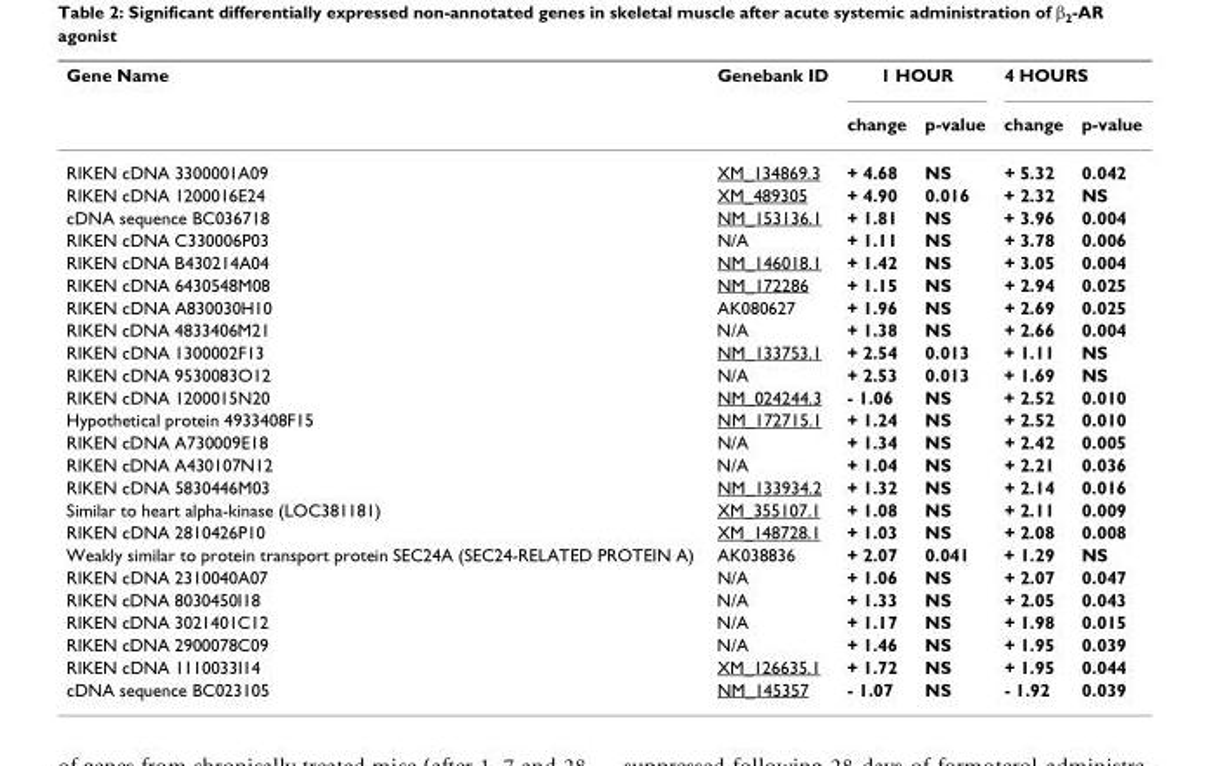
<table><thead><tr><td rowspan="2">Gene Name</td><td rowspan="2">Genebank ID</td><td colspan="2">1 HOUR</td><td colspan="2">4 HOURS</td></tr><tr><td>change</td><td>p-value</td><td>change</td><td>p-value</td></tr></thead><tbody><tr><td>RIKEN cDNA 3300001A09</td><td>XM_134869.3</td><td>+ 4.68</td><td>NS</td><td>+ 5.32</td><td>0.042</td></tr><tr><td>RIKEN cDNA 1200016E24</td><td>XM_489305</td><td>+ 4.90</td><td>0.016</td><td>+ 2.32</td><td>NS</td></tr><tr><td>cDNA sequence BC036718</td><td>NM_153136.1</td><td>+ 1.81</td><td>NS</td><td>+ 3.96</td><td>0.004</td></tr><tr><td>RIKEN cDNA C330006P03</td><td>N/A</td><td>+ 1.11</td><td>NS</td><td>+ 3.78</td><td>0.006</td></tr><tr><td>RIKEN cDNA B430214A04</td><td>NM_146018.1</td><td>+ 1.42</td><td>NS</td><td>+ 3.05</td><td>0.004</td></tr><tr><td>RIKEN cDNA 6430548M08</td><td>NM_172286</td><td>+ 1.15</td><td>NS</td><td>+ 2.94</td><td>0.025</td></tr><tr><td>RIKEN cDNA A830030H10</td><td>AK080627</td><td>+ 1.96</td><td>NS</td><td>+ 2.69</td><td>0.025</td></tr><tr><td>RIKEN cDNA 4833406M21</td><td>N/A</td><td>+ 1.38</td><td>NS</td><td>+ 2.66</td><td>0.004</td></tr><tr><td>RIKEN cDNA 1300002F13</td><td>NM_133753.1</td><td>+ 2.54</td><td>0.013</td><td>+ 1.11</td><td>NS</td></tr><tr><td>RIKEN cDNA 9530083O12</td><td>N/A</td><td>+ 2.53</td><td>0.013</td><td>+ 1.69</td><td>NS</td></tr><tr><td>RIKEN cDNA 1200015N20</td><td>NM_024244.3</td><td>- 1.06</td><td>NS</td><td>+ 2.52</td><td>0.010</td></tr><tr><td>Hypothetical protein 4933408F15</td><td>NM_172715.1</td><td>+ 1.24</td><td>NS</td><td>+ 2.52</td><td>0.010</td></tr><tr><td>RIKEN cDNA A730009E18</td><td>N/A</td><td>+ 1.34</td><td>NS</td><td>+ 2.42</td><td>0.005</td></tr><tr><td>RIKEN cDNA A430107N12</td><td>N/A</td><td>+ 1.04</td><td>NS</td><td>+ 2.21</td><td>0.036</td></tr><tr><td>RIKEN cDNA 5830446M03</td><td>NM_133934.2</td><td>+ 1.32</td><td>NS</td><td>+ 2.14</td><td>0.016</td></tr><tr><td>Similar to heart alpha-kinase (LOC381181)</td><td>XM_355107.1</td><td>+ 1.08</td><td>NS</td><td>+ 2.11</td><td>0.009</td></tr><tr><td>RIKEN cDNA 2810426P10</td><td>XM_148728.1</td><td>+ 1.03</td><td>NS</td><td>+ 2.08</td><td>0.008</td></tr><tr><td>Weakly similar to protein transport protein SEC24A (SEC24-RELATED PROTEIN A)</td><td>AK038836</td><td>+ 2.07</td><td>0.041</td><td>+ 1.29</td><td>NS</td></tr><tr><td>RIKEN cDNA 2310040A07</td><td>N/A</td><td>+ 1.06</td><td>NS</td><td>+ 2.07</td><td>0.047</td></tr><tr><td>RIKEN cDNA 8030450I18</td><td>N/A</td><td>+ 1.33</td><td>NS</td><td>+ 2.05</td><td>0.043</td></tr><tr><td>RIKEN cDNA 3021401C12</td><td>N/A</td><td>+ 1.17</td><td>NS</td><td>+ 1.98</td><td>0.015</td></tr><tr><td>RIKEN cDNA 2900078C09</td><td>N/A</td><td>+ 1.46</td><td>NS</td><td>+ 1.95</td><td>0.039</td></tr><tr><td>RIKEN cDNA 1110033I14</td><td>XM_126635.1</td><td>+ 1.72</td><td>NS</td><td>+ 1.95</td><td>0.044</td></tr><tr><td>cDNA sequence BC023105</td><td>NM_145357</td><td>- 1.07</td><td>NS</td><td>- 1.92</td><td>0.039</td></tr></tbody></table>